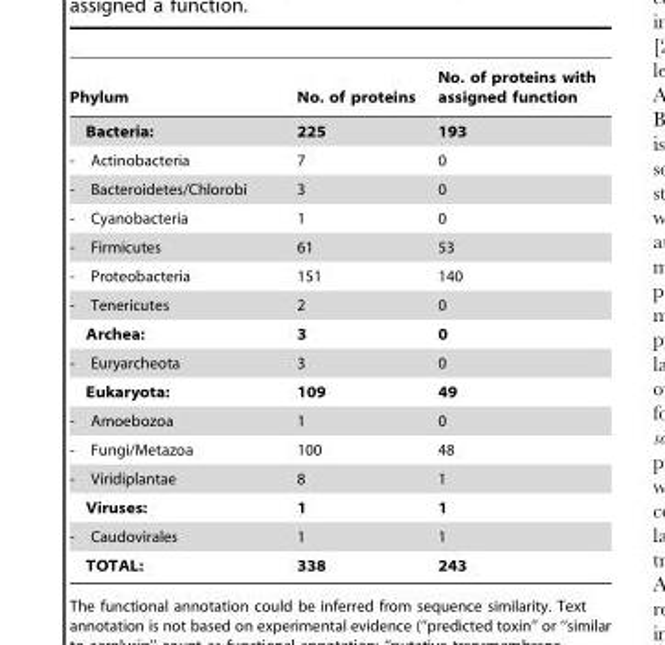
<table><thead><tr><td>Phylum</td><td>No. of proteins</td><td>No. of proteins with assigned function</td></tr></thead><tbody><tr><td>Bacteria:</td><td>225</td><td>193</td></tr><tr><td>- Actinobacteria</td><td>7</td><td>0</td></tr><tr><td>- Bacteroidetes/Chlorobi</td><td>3</td><td>0</td></tr><tr><td>- Cyanobacteria</td><td>1</td><td>0</td></tr><tr><td>- Firmicutes</td><td>61</td><td>53</td></tr><tr><td>- Proteobacteria</td><td>151</td><td>140</td></tr><tr><td>- Tenericutes</td><td>2</td><td>0</td></tr><tr><td>Archea:</td><td>3</td><td>0</td></tr><tr><td>- Euryarcheota</td><td>3</td><td>0</td></tr><tr><td>Eukaryota:</td><td>109</td><td>49</td></tr><tr><td>- Amoebozoa</td><td>1</td><td>0</td></tr><tr><td>- Fungi/Metazoa</td><td>100</td><td>48</td></tr><tr><td>- Viridiplantae</td><td>8</td><td>1</td></tr><tr><td>Viruses:</td><td>1</td><td>1</td></tr><tr><td>- Caudovirales</td><td>1</td><td>1</td></tr><tr><td>TOTAL:</td><td>338</td><td>243</td></tr></tbody></table>